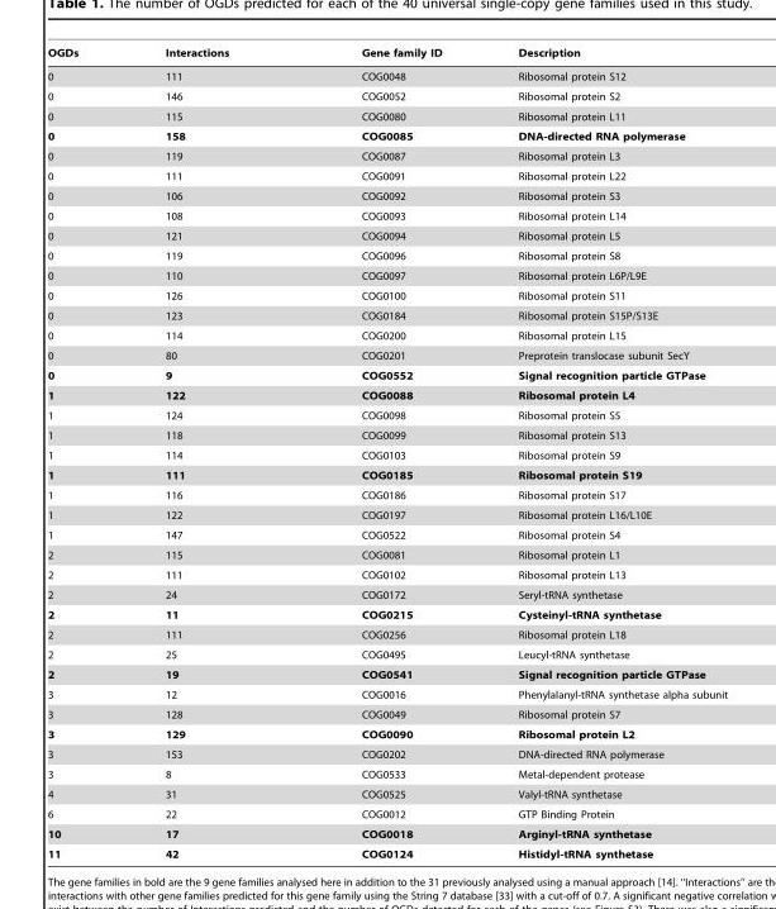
<table><thead><tr><td>OGDs</td><td>Interactions</td><td>Gene family ID</td><td>Description</td></tr></thead><tbody><tr><td>0</td><td>111</td><td>COG0048</td><td>Ribosomal protein S12</td></tr><tr><td>0</td><td>146</td><td>COG0052</td><td>Ribosomal protein S2</td></tr><tr><td>0</td><td>115</td><td>COG0080</td><td>Ribosomal protein L11</td></tr><tr><td>0</td><td>158</td><td>COG0085</td><td>DNA-directed RNA polymerase</td></tr><tr><td>0</td><td>119</td><td>COG0087</td><td>Ribosomal protein L3</td></tr><tr><td>0</td><td>111</td><td>COG0091</td><td>Ribosomal protein L22</td></tr><tr><td>0</td><td>106</td><td>COG0092</td><td>Ribosomal protein S3</td></tr><tr><td>0</td><td>108</td><td>COG0093</td><td>Ribosomal protein L14</td></tr><tr><td>0</td><td>121</td><td>COG0094</td><td>Ribosomal protein L5</td></tr><tr><td>0</td><td>119</td><td>COG0096</td><td>Ribosomal protein S8</td></tr><tr><td>0</td><td>110</td><td>COG0097</td><td>Ribosomal protein L6P/L9E</td></tr><tr><td>0</td><td>126</td><td>COG0100</td><td>Ribosomal protein S11</td></tr><tr><td>0</td><td>123</td><td>COG0184</td><td>Ribosomal protein S15P/S13E</td></tr><tr><td>0</td><td>114</td><td>COG0200</td><td>Ribosomal protein L15</td></tr><tr><td>0</td><td>80</td><td>COG0201</td><td>Preprotein translocase subunit SecY</td></tr><tr><td>0</td><td>9</td><td>COG0552</td><td>Signal recognition particle GTPase</td></tr><tr><td>1</td><td>122</td><td>COG0088</td><td>Ribosomal protein L4</td></tr><tr><td>1</td><td>124</td><td>COG0098</td><td>Ribosomal protein S5</td></tr><tr><td>1</td><td>118</td><td>COG0099</td><td>Ribosomal protein S13</td></tr><tr><td>1</td><td>114</td><td>COG0103</td><td>Ribosomal protein S9</td></tr><tr><td>1</td><td>111</td><td>COG0185</td><td>Ribosomal protein S19</td></tr><tr><td>1</td><td>116</td><td>COG0186</td><td>Ribosomal protein S17</td></tr><tr><td>1</td><td>122</td><td>COG0197</td><td>Ribosomal protein L16/L10E</td></tr><tr><td>1</td><td>147</td><td>COG0522</td><td>Ribosomal protein S4</td></tr><tr><td>2</td><td>115</td><td>COG0081</td><td>Ribosomal protein L1</td></tr><tr><td>2</td><td>111</td><td>COG0102</td><td>Ribosomal protein L13</td></tr><tr><td>2</td><td>24</td><td>COG0172</td><td>Seryl-tRNA synthetase</td></tr><tr><td>2</td><td>11</td><td>COG0215</td><td>Cysteinyl-tRNA synthetase</td></tr><tr><td>2</td><td>111</td><td>COG0256</td><td>Ribosomal protein L18</td></tr><tr><td>2</td><td>25</td><td>COG0495</td><td>Leucyl-tRNA synthetase</td></tr><tr><td>2</td><td>19</td><td>COG0541</td><td>Signal recognition particle GTPase</td></tr><tr><td>3</td><td>12</td><td>COG0016</td><td>Phenylalanyl-tRNA synthetase alpha subunit</td></tr><tr><td>3</td><td>128</td><td>COG0049</td><td>Ribosomal protein S7</td></tr><tr><td>3</td><td>129</td><td>COG0090</td><td>Ribosomal protein L2</td></tr><tr><td>3</td><td>153</td><td>COG0202</td><td>DNA-directed RNA polymerase</td></tr><tr><td>3</td><td>8</td><td>COG0533</td><td>Metal-dependent protease</td></tr><tr><td>4</td><td>31</td><td>COG0525</td><td>Valyl-tRNA synthetase</td></tr><tr><td>6</td><td>22</td><td>COG0012</td><td>GTP Binding Protein</td></tr><tr><td>10</td><td>17</td><td>COG0018</td><td>Arginyl-tRNA synthetase</td></tr><tr><td>11</td><td>42</td><td>COG0124</td><td>Histidyl-tRNA synthetase</td></tr></tbody></table>